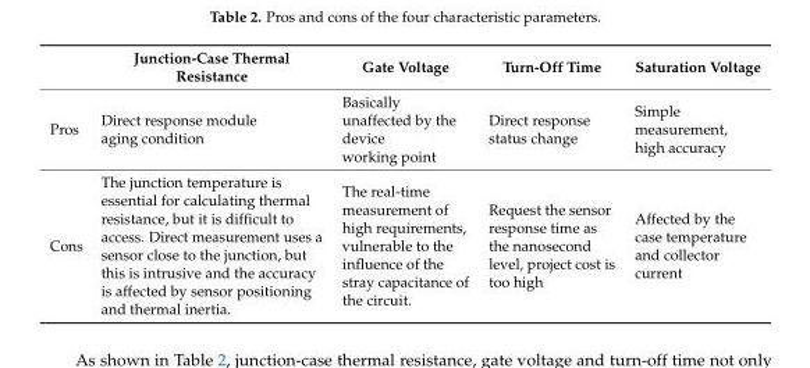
<table><thead><tr><td></td><td>Junction-Case Thermal Resistance</td><td>Gate Voltage</td><td>Turn-Off Time</td><td>Saturation Voltage</td></tr></thead><tbody><tr><td>Pros</td><td>Direct response module aging condition</td><td>Basically unaffected by the device working point</td><td>Direct response status change</td><td>Simple measurement, high accuracy</td></tr><tr><td>Cons</td><td>The junction temperature is essential for calculating thermal resistance, but it is difficult to access. Direct measurement uses a sensor close to the junction, but this is intrusive and the accuracy is affected by sensor positioning and thermal inertia.</td><td>The real-time measurement of high requirements, vulnerable to the influence of the stray capacitance of the circuit.</td><td>Request the sensor response time as the nanosecond level, project cost is too high</td><td>Affected by the case temperature and collector current</td></tr></tbody></table>